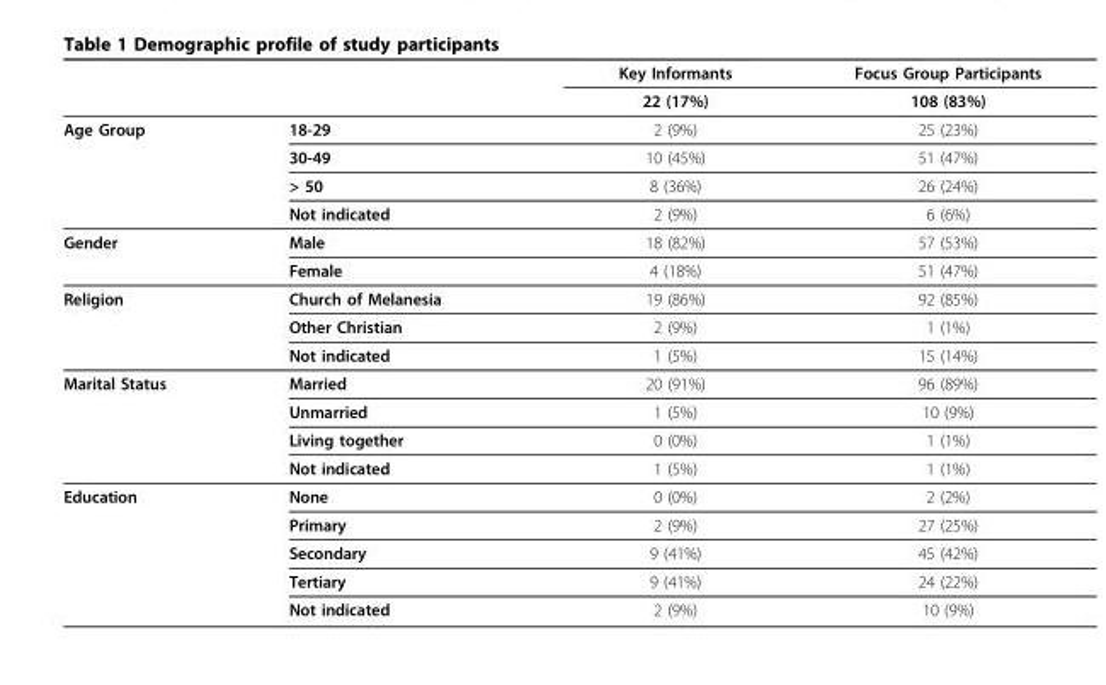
<table><thead><tr><td rowspan="2"></td><td rowspan="2"></td><td rowspan="2">Key Informants 22 (17%)</td><td rowspan="2">Focus Group Participants 108 (83%)</td></tr><tr></tr></thead><tbody><tr><td rowspan="4">Age Group</td><td>18-29</td><td>2 (9%)</td><td>25 (23%)</td></tr><tr><td>30-49</td><td>10 (45%)</td><td>51 (47%)</td></tr><tr><td>&gt; 50</td><td>8 (36%)</td><td>26 (24%)</td></tr><tr><td>Not indicated</td><td>2 (9%)</td><td>6 (6%)</td></tr><tr><td rowspan="2">Gender</td><td>Male</td><td>18 (82%)</td><td>57 (53%)</td></tr><tr><td>Female</td><td>4 (18%)</td><td>51 (47%)</td></tr><tr><td rowspan="3">Religion</td><td>Church of Melanesia</td><td>19 (86%)</td><td>92 (85%)</td></tr><tr><td>Other Christian</td><td>2 (9%)</td><td>1 (1%)</td></tr><tr><td>Not indicated</td><td>1 (5%)</td><td>15 (14%)</td></tr><tr><td rowspan="4">Marital Status</td><td>Married</td><td>20 (91%)</td><td>96 (89%)</td></tr><tr><td>Unmarried</td><td>1 (5%)</td><td>10 (9%)</td></tr><tr><td>Living together</td><td>0 (0%)</td><td>1 (1%)</td></tr><tr><td>Not indicated</td><td>1 (5%)</td><td>1 (1%)</td></tr><tr><td rowspan="5">Education</td><td>None</td><td>0 (0%)</td><td>2 (2%)</td></tr><tr><td>Primary</td><td>2 (9%)</td><td>27 (25%)</td></tr><tr><td>Secondary</td><td>9 (41%)</td><td>45 (42%)</td></tr><tr><td>Tertiary</td><td>9 (41%)</td><td>24 (22%)</td></tr><tr><td>Not indicated</td><td>2 (9%)</td><td>10 (9%)</td></tr></tbody></table>